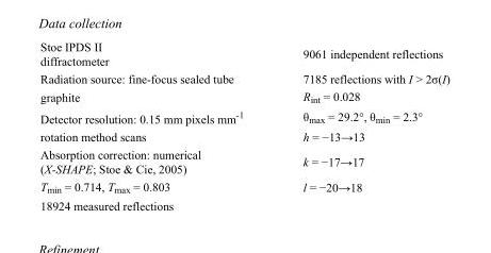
<table><tbody><tr><td>Stoe IPDS II diffractometer</td><td>9061 independent reflections</td></tr><tr><td>Radiation source: fine-focus sealed tube</td><td>7185 reflections with I &gt; 2σ(I)</td></tr><tr><td>graphite</td><td>R<sub>int</sub> = 0.028</td></tr><tr><td>Detector resolution: 0.15 mm pixels mm<sup>-1</sup></td><td>θ<sub>max</sub> = 29.2°, θ<sub>min</sub> = 2.3°</td></tr><tr><td>rotation method scans</td><td>h = −13→13</td></tr><tr><td>Absorption correction: numerical (X-SHAPE; Stoe &amp; Cie, 2005)</td><td>k = −17→17</td></tr><tr><td>T<sub>min</sub> = 0.714, T<sub>max</sub> = 0.803</td><td>l = −20→18</td></tr><tr><td>18924 measured reflections</td><td></td></tr></tbody></table>